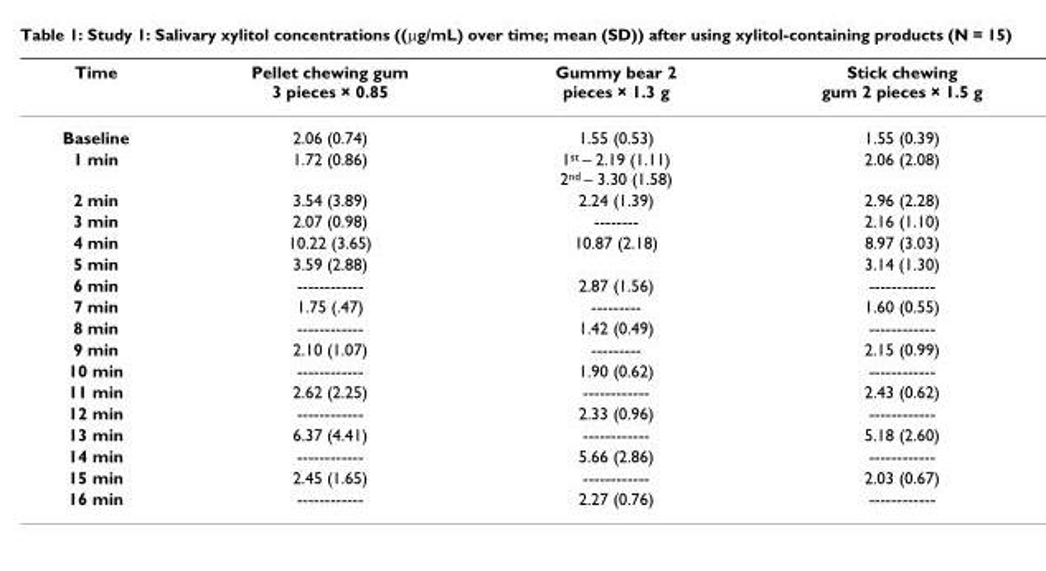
<table><thead><tr><td>Time</td><td>Pellet chewing gum 3 pieces × 0.85</td><td>Gummy bear 2 pieces × 1.3 g</td><td>Stick chewing gum 2 pieces × 1.5 g</td></tr></thead><tbody><tr><td>Baseline</td><td>2.06 (0.74)</td><td>1.55 (0.53)</td><td>1.55 (0.39)</td></tr><tr><td>1 min</td><td>1.72 (0.86)</td><td>1<sup>st</sup> – 2.19 (1.11) 2<sup>nd</sup> – 3.30 (1.58)</td><td>2.06 (2.08)</td></tr><tr><td>2 min</td><td>3.54 (3.89)</td><td>2.24 (1.39)</td><td>2.96 (2.28)</td></tr><tr><td>3 min</td><td>2.07 (0.98)</td><td>--------</td><td>2.16 (1.10)</td></tr><tr><td>4 min</td><td>10.22 (3.65)</td><td>10.87 (2.18)</td><td>8.97 (3.03)</td></tr><tr><td>5 min</td><td>3.59 (2.88)</td><td></td><td>3.14 (1.30)</td></tr><tr><td>6 min</td><td>------------</td><td>2.87 (1.56)</td><td>------------</td></tr><tr><td>7 min</td><td>1.75 (.47)</td><td>---------</td><td>1.60 (0.55)</td></tr><tr><td>8 min</td><td>------------</td><td>1.42 (0.49)</td><td>------------</td></tr><tr><td>9 min</td><td>2.10 (1.07)</td><td>---------</td><td>2.15 (0.99)</td></tr><tr><td>10 min</td><td>------------</td><td>1.90 (0.62)</td><td>------------</td></tr><tr><td>11 min</td><td>2.62 (2.25)</td><td>------------</td><td>2.43 (0.62)</td></tr><tr><td>12 min</td><td>------------</td><td>2.33 (0.96)</td><td>------------</td></tr><tr><td>13 min</td><td>6.37 (4.41)</td><td>------------</td><td>5.18 (2.60)</td></tr><tr><td>14 min</td><td>------------</td><td>5.66 (2.86)</td><td>------------</td></tr><tr><td>15 min</td><td>2.45 (1.65)</td><td>------------</td><td>2.03 (0.67)</td></tr><tr><td>16 min</td><td>------------</td><td>2.27 (0.76)</td><td>------------</td></tr></tbody></table>